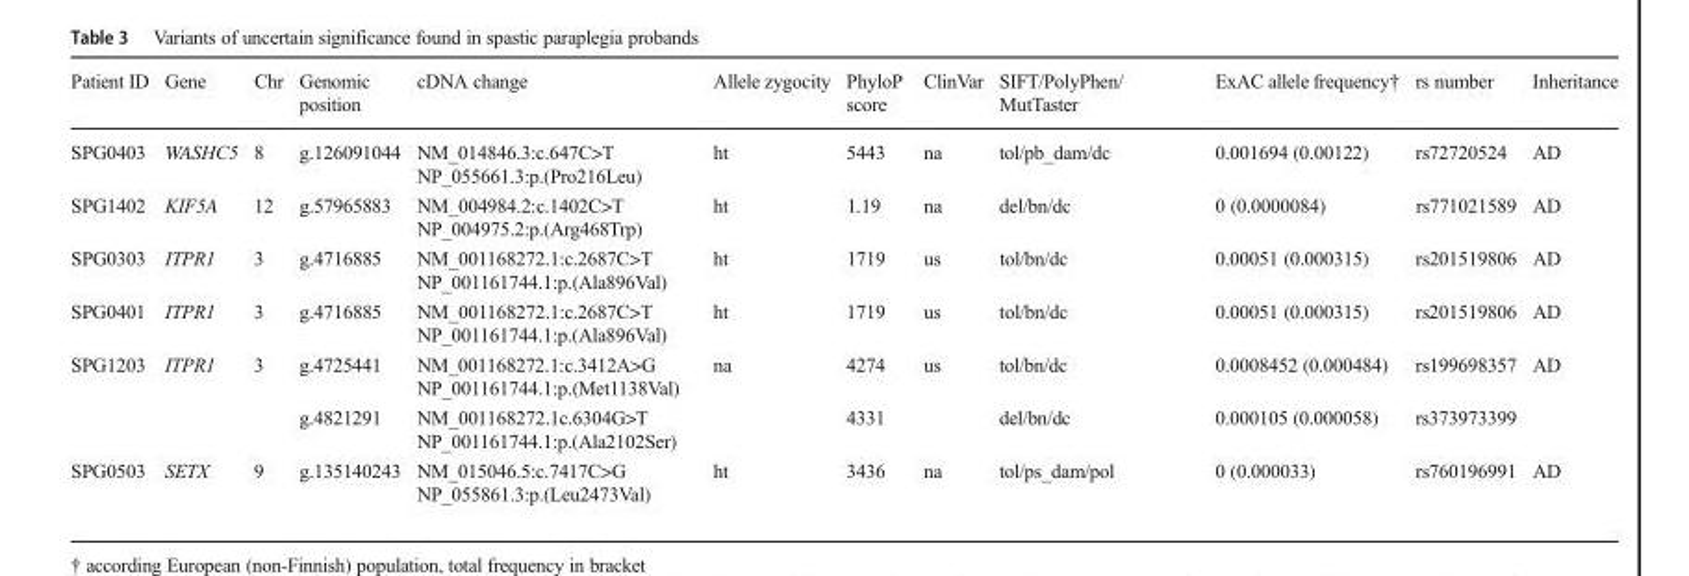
<table><thead><tr><td>Patient ID</td><td>Gene</td><td>Chr</td><td>Genomic position</td><td>cDNA change</td><td>Allele zygocity</td><td>PhyloP score</td><td>ClinVar</td><td>SIFT/PolyPhen/ MutTaster</td><td>ExAC allele frequency†</td><td>rs number</td><td>Inheritance</td></tr></thead><tbody><tr><td rowspan="2">SPG0403</td><td rowspan="2">WASHC5</td><td rowspan="2">8</td><td rowspan="2">g.126091044</td><td>NM_014846.3:c.647C&gt;T</td><td rowspan="2">ht</td><td rowspan="2">5443</td><td rowspan="2">na</td><td rowspan="2">tol/pb_dam/dc</td><td rowspan="2">0.001694 (0.00122)</td><td rowspan="2">rs72720524</td><td rowspan="2">AD</td></tr><tr><td>NP_055661.3:p.(Pro216Leu)</td></tr><tr><td rowspan="2">SPG1402</td><td rowspan="2">KIF5A</td><td rowspan="2">12</td><td rowspan="2">g.57965883</td><td>NM_004984.2:c.1402C&gt;T</td><td rowspan="2">ht</td><td rowspan="2">1.19</td><td rowspan="2">na</td><td rowspan="2">del/bn/dc</td><td rowspan="2">0 (0.0000084)</td><td rowspan="2">rs771021589</td><td rowspan="2">AD</td></tr><tr><td>NP_004975.2:p.(Arg468Trp)</td></tr><tr><td rowspan="2">SPG0303</td><td rowspan="2">ITPR1</td><td rowspan="2">3</td><td rowspan="2">g.4716885</td><td>NM_001168272.1:c.2687C&gt;T</td><td rowspan="2">ht</td><td rowspan="2">1719</td><td rowspan="2">us</td><td rowspan="2">tol/bn/dc</td><td rowspan="2">0.00051 (0.000315)</td><td rowspan="2">rs201519806</td><td rowspan="2">AD</td></tr><tr><td>NP_001161744.1:p.(Ala896Val)</td></tr><tr><td rowspan="2">SPG0401</td><td rowspan="2">ITPR1</td><td rowspan="2">3</td><td rowspan="2">g.4716885</td><td>NM_001168272.1:c.2687C&gt;T</td><td rowspan="2">ht</td><td rowspan="2">1719</td><td rowspan="2">us</td><td rowspan="2">tol/bn/dc</td><td rowspan="2">0.00051 (0.000315)</td><td rowspan="2">rs201519806</td><td rowspan="2">AD</td></tr><tr><td>NP_001161744.1:p.(Ala896Val)</td></tr><tr><td rowspan="4">SPG1203</td><td rowspan="4">ITPR1</td><td rowspan="4">3</td><td rowspan="2">g.4725441</td><td>NM_001168272.1:c.3412A&gt;G</td><td rowspan="4">na</td><td rowspan="2">4274</td><td rowspan="4">us</td><td rowspan="2">tol/bn/dc</td><td rowspan="2">0.0008452 (0.000484)</td><td rowspan="2">rs199698357</td><td rowspan="4">AD</td></tr><tr><td>NP_001161744.1:p.(Met1138Val)</td></tr><tr><td rowspan="2">g.4821291</td><td>NM_001168272.1c.6304G&gt;T</td><td rowspan="2">4331</td><td rowspan="2">del/bn/dc</td><td rowspan="2">0.000105 (0.000058)</td><td rowspan="2">rs373973399</td></tr><tr><td>NP_001161744.1:p.(Ala2102Ser)</td></tr><tr><td rowspan="2">SPG0503</td><td rowspan="2">SETX</td><td rowspan="2">9</td><td rowspan="2">g.135140243</td><td>NM_015046.5:c.7417C&gt;G</td><td rowspan="2">ht</td><td rowspan="2">3436</td><td rowspan="2">na</td><td rowspan="2">tol/ps_dam/pol</td><td rowspan="2">0 (0.000033)</td><td rowspan="2">rs760196991</td><td rowspan="2">AD</td></tr><tr><td>NP_055861.3:p.(Leu2473Val)</td></tr></tbody></table>